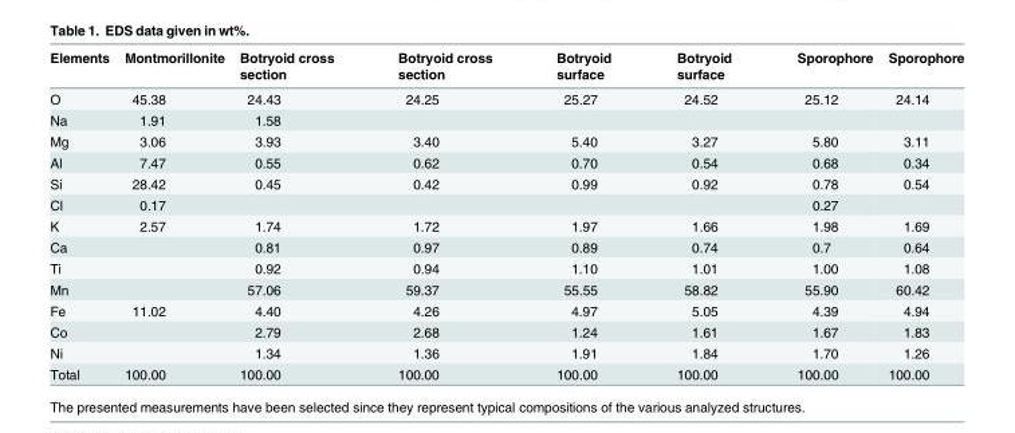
<table><thead><tr><td>Elements</td><td>Montmorillonite</td><td>Botryoid cross section</td><td>Botryoid cross section</td><td>Botryoid surface</td><td>Botryoid surface</td><td>Sporophore</td><td>Sporophore</td></tr></thead><tbody><tr><td>O</td><td>45.38</td><td>24.43</td><td>24.25</td><td>25.27</td><td>24.52</td><td>25.12</td><td>24.14</td></tr><tr><td>Na</td><td>1.91</td><td>1.58</td><td></td><td></td><td></td><td></td><td></td></tr><tr><td>Mg</td><td>3.06</td><td>3.93</td><td>3.40</td><td>5.40</td><td>3.27</td><td>5.80</td><td>3.11</td></tr><tr><td>Al</td><td>7.47</td><td>0.55</td><td>0.62</td><td>0.70</td><td>0.54</td><td>0.68</td><td>0.34</td></tr><tr><td>Si</td><td>28.42</td><td>0.45</td><td>0.42</td><td>0.99</td><td>0.92</td><td>0.78</td><td>0.54</td></tr><tr><td>Cl</td><td>0.17</td><td></td><td></td><td></td><td></td><td>0.27</td><td></td></tr><tr><td>K</td><td>2.57</td><td>1.74</td><td>1.72</td><td>1.97</td><td>1.66</td><td>1.98</td><td>1.69</td></tr><tr><td>Ca</td><td></td><td>0.81</td><td>0.97</td><td>0.89</td><td>0.74</td><td>0.7</td><td>0.64</td></tr><tr><td>Ti</td><td></td><td>0.92</td><td>0.94</td><td>1.10</td><td>1.01</td><td>1.00</td><td>1.08</td></tr><tr><td>Mn</td><td></td><td>57.06</td><td>59.37</td><td>55.55</td><td>58.82</td><td>55.90</td><td>60.42</td></tr><tr><td>Fe</td><td>11.02</td><td>4.40</td><td>4.26</td><td>4.97</td><td>5.05</td><td>4.39</td><td>4.94</td></tr><tr><td>Co</td><td></td><td>2.79</td><td>2.68</td><td>1.24</td><td>1.61</td><td>1.67</td><td>1.83</td></tr><tr><td>Ni</td><td></td><td>1.34</td><td>1.36</td><td>1.91</td><td>1.84</td><td>1.70</td><td>1.26</td></tr><tr><td>Total</td><td>100.00</td><td>100.00</td><td>100.00</td><td>100.00</td><td>100.00</td><td>100.00</td><td>100.00</td></tr></tbody></table>